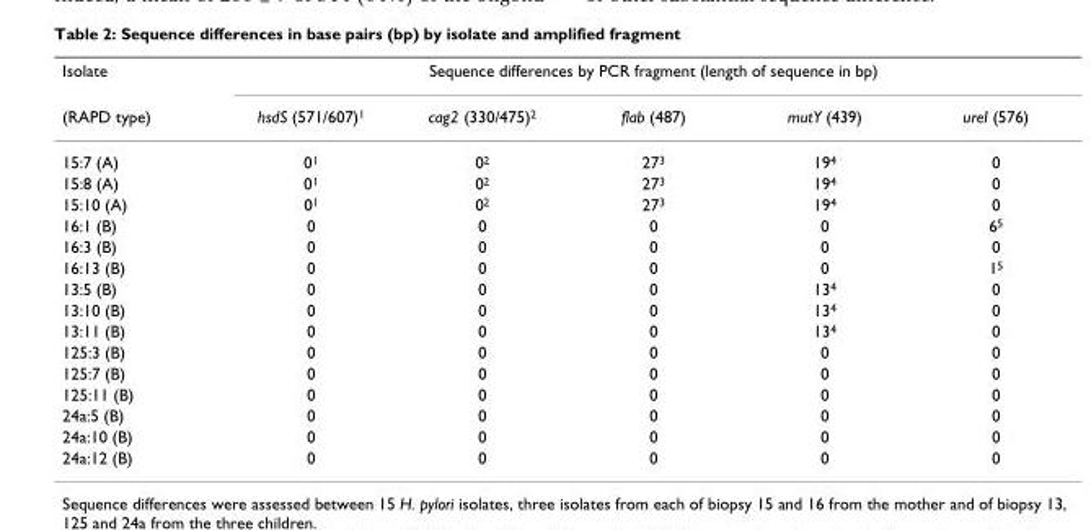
<table><thead><tr><td rowspan="2">Isolate (RAPD type)</td><td colspan="5">Sequence differences by PCR fragment (length of sequence in bp)</td></tr><tr><td>hsdS (571/607)<sup>1</sup></td><td>cag2 (330/475)<sup>2</sup></td><td>flab (487)</td><td>mutY (439)</td><td>ureI (576)</td></tr></thead><tbody><tr><td>15:7 (A)</td><td>0<sup>1</sup></td><td>0<sup>2</sup></td><td>27<sup>3</sup></td><td>19<sup>4</sup></td><td>0</td></tr><tr><td>15:8 (A)</td><td>0<sup>1</sup></td><td>0<sup>2</sup></td><td>27<sup>3</sup></td><td>19<sup>4</sup></td><td>0</td></tr><tr><td>15:10 (A)</td><td>0<sup>1</sup></td><td>0<sup>2</sup></td><td>27<sup>3</sup></td><td>19<sup>4</sup></td><td>0</td></tr><tr><td>16:1 (B)</td><td>0</td><td>0</td><td>0</td><td>0</td><td>6<sup>5</sup></td></tr><tr><td>16:3 (B)</td><td>0</td><td>0</td><td>0</td><td>0</td><td>0</td></tr><tr><td>16:13 (B)</td><td>0</td><td>0</td><td>0</td><td>0</td><td>1<sup>5</sup></td></tr><tr><td>13:5 (B)</td><td>0</td><td>0</td><td>0</td><td>13<sup>4</sup></td><td>0</td></tr><tr><td>13:10 (B)</td><td>0</td><td>0</td><td>0</td><td>13<sup>4</sup></td><td>0</td></tr><tr><td>13:11 (B)</td><td>0</td><td>0</td><td>0</td><td>13<sup>4</sup></td><td>0</td></tr><tr><td>125:3 (B)</td><td>0</td><td>0</td><td>0</td><td>0</td><td>0</td></tr><tr><td>125:7 (B)</td><td>0</td><td>0</td><td>0</td><td>0</td><td>0</td></tr><tr><td>125:11 (B)</td><td>0</td><td>0</td><td>0</td><td>0</td><td>0</td></tr><tr><td>24a:5 (B)</td><td>0</td><td>0</td><td>0</td><td>0</td><td>0</td></tr><tr><td>24a:10 (B)</td><td>0</td><td>0</td><td>0</td><td>0</td><td>0</td></tr><tr><td>24a:12 (B)</td><td>0</td><td>0</td><td>0</td><td>0</td><td>0</td></tr></tbody></table>